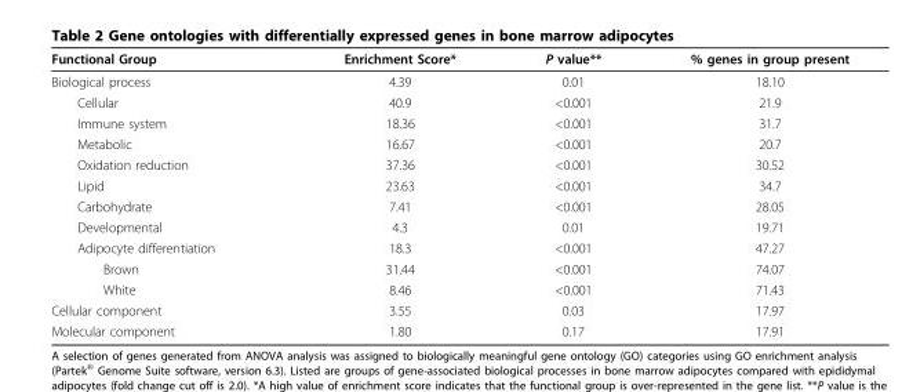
<table><thead><tr><td>Functional Group</td><td>Enrichment Score*</td><td>P value**</td><td>% genes in group present</td></tr></thead><tbody><tr><td>Biological process</td><td>4.39</td><td>0.01</td><td>18.10</td></tr><tr><td>Cellular</td><td>40.9</td><td>&lt;0.001</td><td>21.9</td></tr><tr><td>Immune system</td><td>18.36</td><td>&lt;0.001</td><td>31.7</td></tr><tr><td>Metabolic</td><td>16.67</td><td>&lt;0.001</td><td>20.7</td></tr><tr><td>Oxidation reduction</td><td>37.36</td><td>&lt;0.001</td><td>30.52</td></tr><tr><td>Lipid</td><td>23.63</td><td>&lt;0.001</td><td>34.7</td></tr><tr><td>Carbohydrate</td><td>7.41</td><td>&lt;0.001</td><td>28.05</td></tr><tr><td>Developmental</td><td>4.3</td><td>0.01</td><td>19.71</td></tr><tr><td>Adipocyte differentiation</td><td>18.3</td><td>&lt;0.001</td><td>47.27</td></tr><tr><td>Brown</td><td>31.44</td><td>&lt;0.001</td><td>74.07</td></tr><tr><td>White</td><td>8.46</td><td>&lt;0.001</td><td>71.43</td></tr><tr><td>Cellular component</td><td>3.55</td><td>0.03</td><td>17.97</td></tr><tr><td>Molecular component</td><td>1.80</td><td>0.17</td><td>17.91</td></tr></tbody></table>